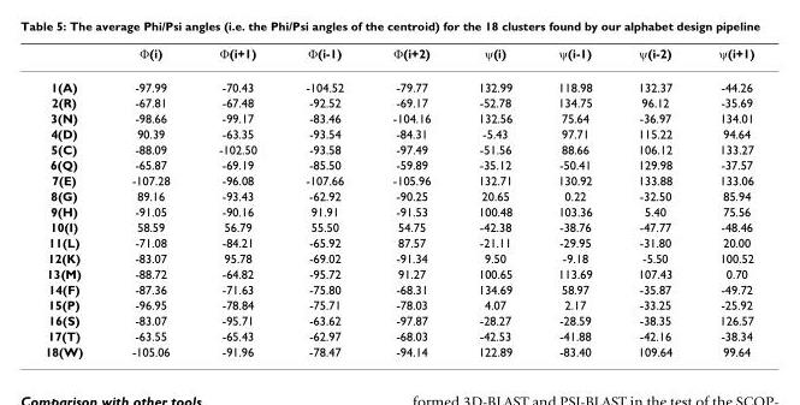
<table><thead><tr><td></td><td>Φ(i)</td><td>Φ(i+1)</td><td>Φ(i-1)</td><td>Φ(i+2)</td><td>ψ(i)</td><td>ψ(i-1)</td><td>ψ(i-2)</td><td>ψ(i+1)</td></tr></thead><tbody><tr><td>1(A)</td><td>-97.99</td><td>-70.43</td><td>-104.52</td><td>-79.77</td><td>132.99</td><td>118.98</td><td>132.37</td><td>-44.26</td></tr><tr><td>2(R)</td><td>-67.81</td><td>-67.48</td><td>-92.52</td><td>-69.17</td><td>-52.78</td><td>134.75</td><td>96.12</td><td>-35.69</td></tr><tr><td>3(N)</td><td>-98.66</td><td>-99.17</td><td>-83.46</td><td>-104.16</td><td>132.56</td><td>75.64</td><td>-36.97</td><td>134.01</td></tr><tr><td>4(D)</td><td>90.39</td><td>-63.35</td><td>-93.54</td><td>-84.31</td><td>-5.43</td><td>97.71</td><td>115.22</td><td>94.64</td></tr><tr><td>5(C)</td><td>-88.09</td><td>-102.50</td><td>-93.58</td><td>-97.49</td><td>-51.56</td><td>88.66</td><td>106.12</td><td>133.27</td></tr><tr><td>6(Q)</td><td>-65.87</td><td>-69.19</td><td>-85.50</td><td>-59.89</td><td>-35.12</td><td>-50.41</td><td>129.98</td><td>-37.57</td></tr><tr><td>7(E)</td><td>-107.28</td><td>-96.08</td><td>-107.66</td><td>-105.96</td><td>132.71</td><td>130.92</td><td>133.88</td><td>133.06</td></tr><tr><td>8(G)</td><td>89.16</td><td>-93.43</td><td>-62.92</td><td>-90.25</td><td>20.65</td><td>0.22</td><td>-32.50</td><td>85.94</td></tr><tr><td>9(H)</td><td>-91.05</td><td>-90.16</td><td>91.91</td><td>-91.53</td><td>100.48</td><td>103.36</td><td>5.40</td><td>75.56</td></tr><tr><td>10(I)</td><td>58.59</td><td>56.79</td><td>55.50</td><td>54.75</td><td>-42.38</td><td>-38.76</td><td>-47.77</td><td>-48.46</td></tr><tr><td>11(L)</td><td>-71.08</td><td>-84.21</td><td>-65.92</td><td>87.57</td><td>-21.11</td><td>-29.95</td><td>-31.80</td><td>20.00</td></tr><tr><td>12(K)</td><td>-83.07</td><td>95.78</td><td>-69.02</td><td>-91.34</td><td>9.50</td><td>-9.18</td><td>-5.50</td><td>100.52</td></tr><tr><td>13(M)</td><td>-88.72</td><td>-64.82</td><td>-95.72</td><td>91.27</td><td>100.65</td><td>113.69</td><td>107.43</td><td>0.70</td></tr><tr><td>14(F)</td><td>-87.36</td><td>-71.63</td><td>-75.80</td><td>-68.31</td><td>134.69</td><td>58.97</td><td>-35.87</td><td>-49.72</td></tr><tr><td>15(P)</td><td>-96.95</td><td>-78.84</td><td>-75.71</td><td>-78.03</td><td>4.07</td><td>2.17</td><td>-33.25</td><td>-25.92</td></tr><tr><td>16(S)</td><td>-83.07</td><td>-95.71</td><td>-63.62</td><td>-97.87</td><td>-28.27</td><td>-28.59</td><td>-38.35</td><td>126.57</td></tr><tr><td>17(T)</td><td>-63.55</td><td>-65.43</td><td>-62.97</td><td>-68.03</td><td>-42.53</td><td>-41.88</td><td>-42.16</td><td>-38.34</td></tr><tr><td>18(W)</td><td>-105.06</td><td>-91.96</td><td>-78.47</td><td>-94.14</td><td>122.89</td><td>-83.40</td><td>109.64</td><td>99.64</td></tr></tbody></table>